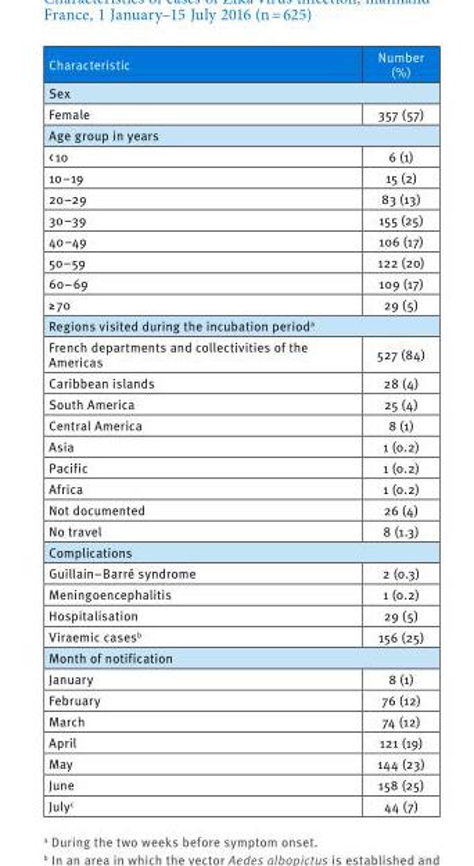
<table><thead><tr><td>Characteristic</td><td>Number (%)</td></tr></thead><tbody><tr><td colspan="2">Sex</td></tr><tr><td>Female</td><td>357 (57)</td></tr><tr><td colspan="2">Age group in years</td></tr><tr><td>&lt; 10</td><td>6 (1)</td></tr><tr><td>10–19</td><td>15 (2)</td></tr><tr><td>20–29</td><td>83 (13)</td></tr><tr><td>30–39</td><td>155 (25)</td></tr><tr><td>40–49</td><td>106 (17)</td></tr><tr><td>50–59</td><td>122 (20)</td></tr><tr><td>60–69</td><td>109 (17)</td></tr><tr><td>≥ 70</td><td>29 (5)</td></tr><tr><td colspan="2">Regions visited during the incubation period<sup>a</sup></td></tr><tr><td>French departments and collectivities of the Americas</td><td>527 (84)</td></tr><tr><td>Caribbean islands</td><td>28 (4)</td></tr><tr><td>South America</td><td>25 (4)</td></tr><tr><td>Central America</td><td>8 (1)</td></tr><tr><td>Asia</td><td>1 (0.2)</td></tr><tr><td>Pacific</td><td>1 (0.2)</td></tr><tr><td>Africa</td><td>1 (0.2)</td></tr><tr><td>Not documented</td><td>26 (4)</td></tr><tr><td>No travel</td><td>8 (1.3)</td></tr><tr><td colspan="2">Complications</td></tr><tr><td>Guillain–Barré syndrome</td><td>2 (0.3)</td></tr><tr><td>Meningoencephalitis</td><td>1 (0.2)</td></tr><tr><td>Hospitalisation</td><td>29 (5)</td></tr><tr><td>Viraemic cases<sup>b</sup></td><td>156 (25)</td></tr><tr><td colspan="2">Month of notification</td></tr><tr><td>January</td><td>8 (1)</td></tr><tr><td>February</td><td>76 (12)</td></tr><tr><td>March</td><td>74 (12)</td></tr><tr><td>April</td><td>121 (19)</td></tr><tr><td>May</td><td>144 (23)</td></tr><tr><td>June</td><td>158 (25)</td></tr><tr><td>July<sup>c</sup></td><td>44 (7)</td></tr></tbody></table>